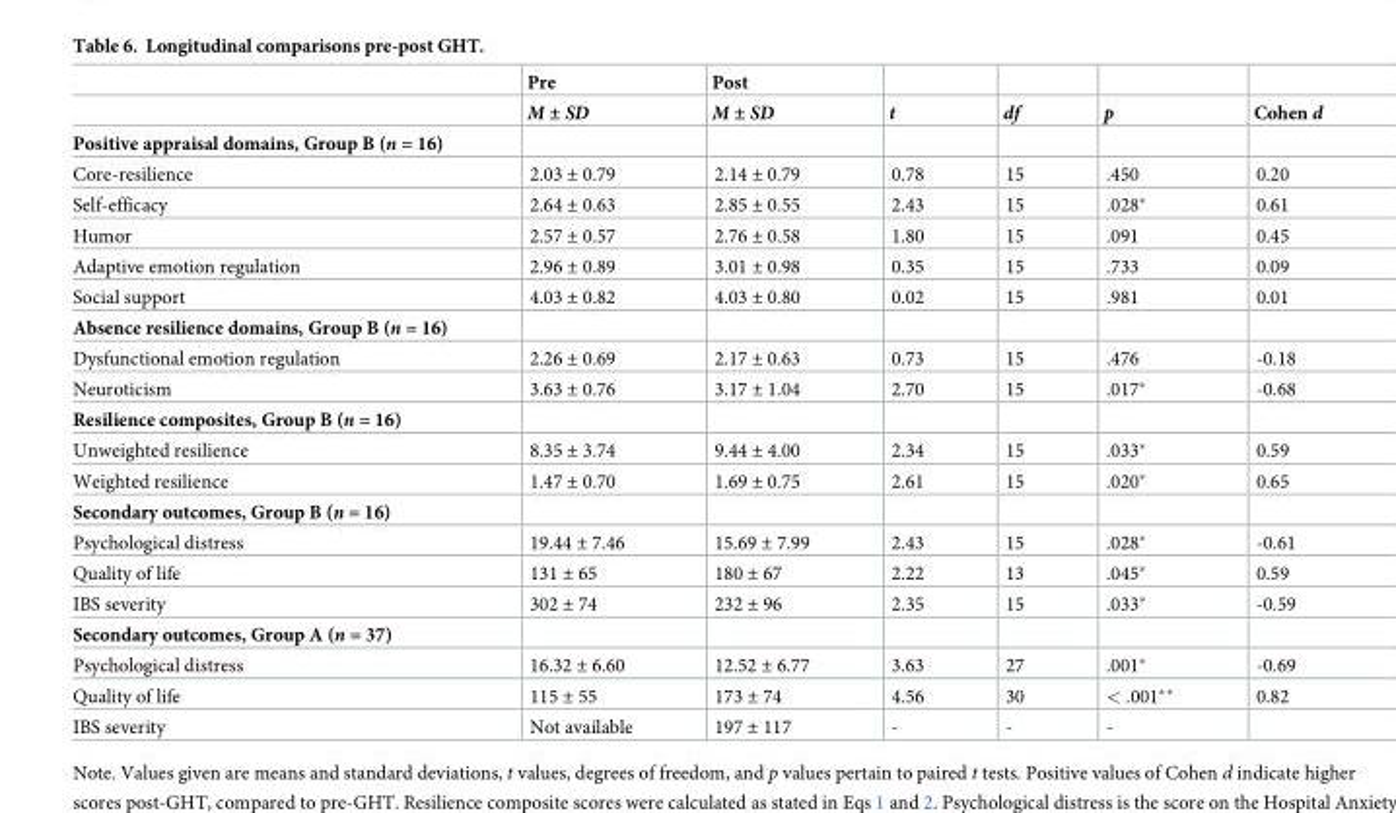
<table><thead><tr><td rowspan="2"></td><td rowspan="2">Pre M ± SD</td><td rowspan="2">Post M ± SD</td><td rowspan="2">t</td><td rowspan="2">df</td><td rowspan="2">p</td><td rowspan="2">Cohen d</td></tr><tr></tr></thead><tbody><tr><td colspan="7">Positive appraisal domains, Group B (n = 16)</td></tr><tr><td>Core-resilience</td><td>2.03 ± 0.79</td><td>2.14 ± 0.79</td><td>0.78</td><td>15</td><td>.450</td><td>0.20</td></tr><tr><td>Self-efficacy</td><td>2.64 ± 0.63</td><td>2.85 ± 0.55</td><td>2.43</td><td>15</td><td>.028*</td><td>0.61</td></tr><tr><td>Humor</td><td>2.57 ± 0.57</td><td>2.76 ± 0.58</td><td>1.80</td><td>15</td><td>.091</td><td>0.45</td></tr><tr><td>Adaptive emotion regulation</td><td>2.96 ± 0.89</td><td>3.01 ± 0.98</td><td>0.35</td><td>15</td><td>.733</td><td>0.09</td></tr><tr><td>Social support</td><td>4.03 ± 0.82</td><td>4.03 ± 0.80</td><td>0.02</td><td>15</td><td>.981</td><td>0.01</td></tr><tr><td colspan="7">Absence resilience domains, Group B (n = 16)</td></tr><tr><td>Dysfunctional emotion regulation</td><td>2.26 ± 0.69</td><td>2.17 ± 0.63</td><td>0.73</td><td>15</td><td>.476</td><td>-0.18</td></tr><tr><td>Neuroticism</td><td>3.63 ± 0.76</td><td>3.17 ± 1.04</td><td>2.70</td><td>15</td><td>.017*</td><td>-0.68</td></tr><tr><td colspan="7">Resilience composites, Group B (n = 16)</td></tr><tr><td>Unweighted resilience</td><td>8.35 ± 3.74</td><td>9.44 ± 4.00</td><td>2.34</td><td>15</td><td>.033*</td><td>0.59</td></tr><tr><td>Weighted resilience</td><td>1.47 ± 0.70</td><td>1.69 ± 0.75</td><td>2.61</td><td>15</td><td>.020*</td><td>0.65</td></tr><tr><td colspan="7">Secondary outcomes, Group B (n = 16)</td></tr><tr><td>Psychological distress</td><td>19.44 ± 7.46</td><td>15.69 ± 7.99</td><td>2.43</td><td>15</td><td>.028*</td><td>-0.61</td></tr><tr><td>Quality of life</td><td>131 ± 65</td><td>180 ± 67</td><td>2.22</td><td>13</td><td>.045*</td><td>0.59</td></tr><tr><td>IBS severity</td><td>302 ± 74</td><td>232 ± 96</td><td>2.35</td><td>15</td><td>.033*</td><td>-0.59</td></tr><tr><td colspan="7">Secondary outcomes, Group A (n = 37)</td></tr><tr><td>Psychological distress</td><td>16.32 ± 6.60</td><td>12.52 ± 6.77</td><td>3.63</td><td>27</td><td>.001*</td><td>-0.69</td></tr><tr><td>Quality of life</td><td>115 ± 55</td><td>173 ± 74</td><td>4.56</td><td>30</td><td>&lt; .001**</td><td>0.82</td></tr><tr><td>IBS severity</td><td>Not available</td><td>197 ± 117</td><td>-</td><td>-</td><td>-</td><td></td></tr></tbody></table>